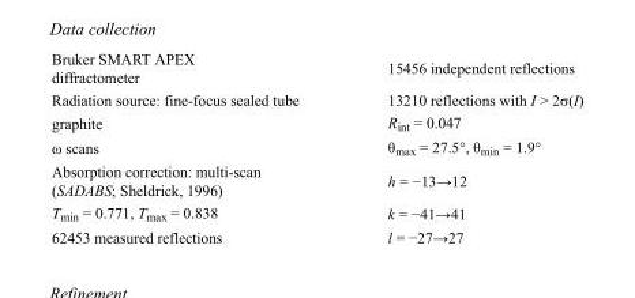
<table><tbody><tr><td>Bruker SMART APEX diffractometer</td><td>15456 independent reflections</td></tr><tr><td>Radiation source: fine-focus sealed tube</td><td>13210 reflections with I &gt; 2σ(I)</td></tr><tr><td>graphite</td><td>R<sub>int</sub> = 0.047</td></tr><tr><td>ω scans</td><td>θ<sub>max</sub> = 27.5°, θ<sub>min</sub> = 1.9°</td></tr><tr><td>Absorption correction: multi-scan (SADABS; Sheldrick, 1996)</td><td>h = −13→12</td></tr><tr><td>T<sub>min</sub> = 0.771, T<sub>max</sub> = 0.838</td><td>k = −41→41</td></tr><tr><td>62453 measured reflections</td><td>l = −27→27</td></tr></tbody></table>